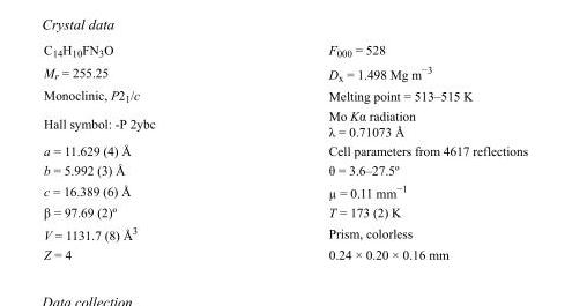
<table><tbody><tr><td>C<sub>14</sub>H<sub>10</sub>FN<sub>3</sub>O</td><td>F<sub>000</sub> = 528</td></tr><tr><td>M<sub>r</sub> = 255.25</td><td>D<sub>x</sub> = 1.498 Mg m<sup>−3</sup></td></tr><tr><td>Monoclinic, P2<sub>1</sub>/c</td><td>Melting point = 513–515 K</td></tr><tr><td>Hall symbol: -P 2ybc</td><td>Mo Kα radiation λ = 0.71073 Å</td></tr><tr><td>a = 11.629 (4) Å</td><td>Cell parameters from 4617 reflections</td></tr><tr><td>b = 5.992 (3) Å</td><td>θ = 3.6–27.5º</td></tr><tr><td>c = 16.389 (6) Å</td><td>µ = 0.11 mm<sup>−1</sup></td></tr><tr><td>β = 97.69 (2)º</td><td>T = 173 (2) K</td></tr><tr><td>V = 1131.7 (8) Å<sup>3</sup></td><td>Prism, colorless</td></tr><tr><td>Z = 4</td><td>0.24 × 0.20 × 0.16 mm</td></tr></tbody></table>